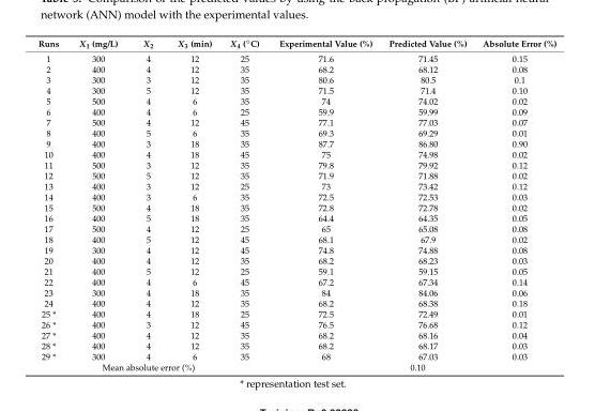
<table><thead><tr><td>Runs</td><td>X<sub>1</sub> (mg/L)</td><td>X<sub>2</sub></td><td>X<sub>3</sub> (min)</td><td>X4 (◦C)</td><td>Experimental Value (%)</td><td>Predicted Value (%)</td><td>Absolute Error (%)</td></tr></thead><tbody><tr><td>1</td><td>300</td><td>4</td><td>12</td><td>25</td><td>71.6</td><td>71.45</td><td>0.15</td></tr><tr><td>2</td><td>400</td><td>4</td><td>12</td><td>35</td><td>68.2</td><td>68.12</td><td>0.08</td></tr><tr><td>3</td><td>300</td><td>3</td><td>12</td><td>35</td><td>80.6</td><td>80.5</td><td>0.1</td></tr><tr><td>4</td><td>300</td><td>5</td><td>12</td><td>35</td><td>71.5</td><td>71.4</td><td>0.10</td></tr><tr><td>5</td><td>500</td><td>4</td><td>6</td><td>35</td><td>74</td><td>74.02</td><td>0.02</td></tr><tr><td>6</td><td>400</td><td>4</td><td>6</td><td>25</td><td>59.9</td><td>59.99</td><td>0.09</td></tr><tr><td>7</td><td>500</td><td>4</td><td>12</td><td>45</td><td>77.1</td><td>77.03</td><td>0.07</td></tr><tr><td>8</td><td>400</td><td>5</td><td>6</td><td>35</td><td>69.3</td><td>69.29</td><td>0.01</td></tr><tr><td>9</td><td>400</td><td>3</td><td>18</td><td>35</td><td>87.7</td><td>86.80</td><td>0.90</td></tr><tr><td>10</td><td>400</td><td>4</td><td>18</td><td>45</td><td>75</td><td>74.98</td><td>0.02</td></tr><tr><td>11</td><td>500</td><td>3</td><td>12</td><td>35</td><td>79.8</td><td>79.92</td><td>0.12</td></tr><tr><td>12</td><td>500</td><td>5</td><td>12</td><td>35</td><td>71.9</td><td>71.88</td><td>0.02</td></tr><tr><td>13</td><td>400</td><td>3</td><td>12</td><td>25</td><td>73</td><td>73.42</td><td>0.12</td></tr><tr><td>14</td><td>400</td><td>3</td><td>6</td><td>35</td><td>72.5</td><td>72.53</td><td>0.03</td></tr><tr><td>15</td><td>500</td><td>4</td><td>18</td><td>35</td><td>72.8</td><td>72.78</td><td>0.02</td></tr><tr><td>16</td><td>400</td><td>5</td><td>18</td><td>35</td><td>64.4</td><td>64.35</td><td>0.05</td></tr><tr><td>17</td><td>500</td><td>4</td><td>12</td><td>25</td><td>65</td><td>65.08</td><td>0.08</td></tr><tr><td>18</td><td>400</td><td>5</td><td>12</td><td>45</td><td>68.1</td><td>67.9</td><td>0.02</td></tr><tr><td>19</td><td>300</td><td>4</td><td>12</td><td>45</td><td>74.8</td><td>74.88</td><td>0.08</td></tr><tr><td>20</td><td>400</td><td>4</td><td>12</td><td>35</td><td>68.2</td><td>68.23</td><td>0.03</td></tr><tr><td>21</td><td>400</td><td>5</td><td>12</td><td>25</td><td>59.1</td><td>59.15</td><td>0.05</td></tr><tr><td>22</td><td>400</td><td>4</td><td>6</td><td>45</td><td>67.2</td><td>67.34</td><td>0.14</td></tr><tr><td>23</td><td>300</td><td>4</td><td>18</td><td>35</td><td>84</td><td>84.06</td><td>0.06</td></tr><tr><td>24</td><td>400</td><td>4</td><td>12</td><td>35</td><td>68.2</td><td>68.38</td><td>0.18</td></tr><tr><td>25 *</td><td>400</td><td>4</td><td>18</td><td>25</td><td>72.5</td><td>72.49</td><td>0.01</td></tr><tr><td>26 *</td><td>400</td><td>3</td><td>12</td><td>45</td><td>76.5</td><td>76.68</td><td>0.12</td></tr><tr><td>27 *</td><td>400</td><td>4</td><td>12</td><td>35</td><td>68.2</td><td>68.16</td><td>0.04</td></tr><tr><td>28 *</td><td>400</td><td>4</td><td>12</td><td>35</td><td>68.2</td><td>68.17</td><td>0.03</td></tr><tr><td>29 *</td><td>300</td><td>4</td><td>6</td><td>35</td><td>68</td><td>67.03</td><td>0.03</td></tr><tr><td colspan="5">Mean absolute error (%)</td><td colspan="3">0.10</td></tr></tbody></table>